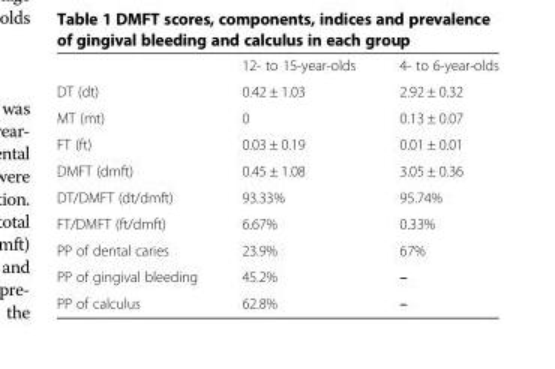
<table><thead><tr><td></td><td>12- to 15-year-olds</td><td>4- to 6-year-olds</td></tr></thead><tbody><tr><td>DT (dt)</td><td>0.42 ± 1.03</td><td>2.92 ± 0.32</td></tr><tr><td>MT (mt)</td><td>0</td><td>0.13 ± 0.07</td></tr><tr><td>FT (ft)</td><td>0.03 ± 0.19</td><td>0.01 ± 0.01</td></tr><tr><td>DMFT (dmft)</td><td>0.45 ± 1.08</td><td>3.05 ± 0.36</td></tr><tr><td>DT/DMFT (dt/dmft)</td><td>93.33%</td><td>95.74%</td></tr><tr><td>FT/DMFT (ft/dmft)</td><td>6.67%</td><td>0.33%</td></tr><tr><td>PP of dental caries</td><td>23.9%</td><td>67%</td></tr><tr><td>PP of gingival bleeding</td><td>45.2%</td><td>–</td></tr><tr><td>PP of calculus</td><td>62.8%</td><td>–</td></tr></tbody></table>